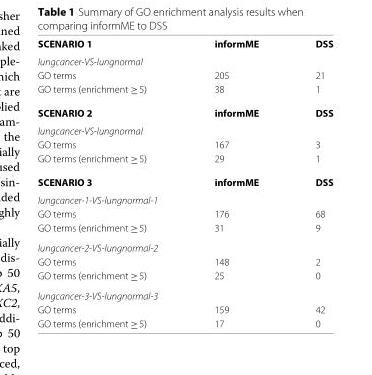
<table><tbody><tr><td>SCENARIO 1</td><td>informME</td><td>DSS</td></tr><tr><td colspan="3">lungcancer-VS-lungnormal</td></tr><tr><td>GO terms</td><td>205</td><td>21</td></tr><tr><td>GO terms (enrichment ≥5)</td><td>38</td><td>1</td></tr><tr><td>SCENARIO 2</td><td>informME</td><td>DSS</td></tr><tr><td colspan="3">lungcancer-VS-lungnormal</td></tr><tr><td>GO terms</td><td>167</td><td>3</td></tr><tr><td>GO terms (enrichment ≥5)</td><td>29</td><td>1</td></tr><tr><td>SCENARIO 3</td><td>informME</td><td>DSS</td></tr><tr><td colspan="3">lungcancer-1-VS-lungnormal-1</td></tr><tr><td>GO terms</td><td>176</td><td>68</td></tr><tr><td>GO terms (enrichment ≥5)</td><td>31</td><td>9</td></tr><tr><td colspan="3">lungcancer-2-VS-lungnormal-2</td></tr><tr><td>GO terms</td><td>148</td><td>2</td></tr><tr><td>GO terms (enrichment ≥5)</td><td>25</td><td>0</td></tr><tr><td colspan="3">lungcancer-3-VS-lungnormal-3</td></tr><tr><td>GO terms</td><td>159</td><td>42</td></tr><tr><td>GO terms (enrichment ≥5)</td><td>17</td><td>0</td></tr></tbody></table>